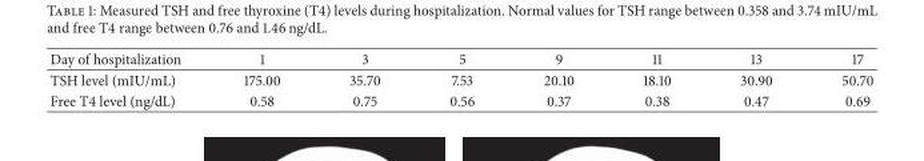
<table><thead><tr><td>Day of hospitalization</td><td>1</td><td>3</td><td>5</td><td>9</td><td>11</td><td>13</td><td>17</td></tr></thead><tbody><tr><td>TSH level (mIU/mL)</td><td>175.00</td><td>35.70</td><td>7.53</td><td>20.10</td><td>18.10</td><td>30.90</td><td>50.70</td></tr><tr><td>Free T4 level (ng/dL)</td><td>0.58</td><td>0.75</td><td>0.56</td><td>0.37</td><td>0.38</td><td>0.47</td><td>0.69</td></tr></tbody></table>